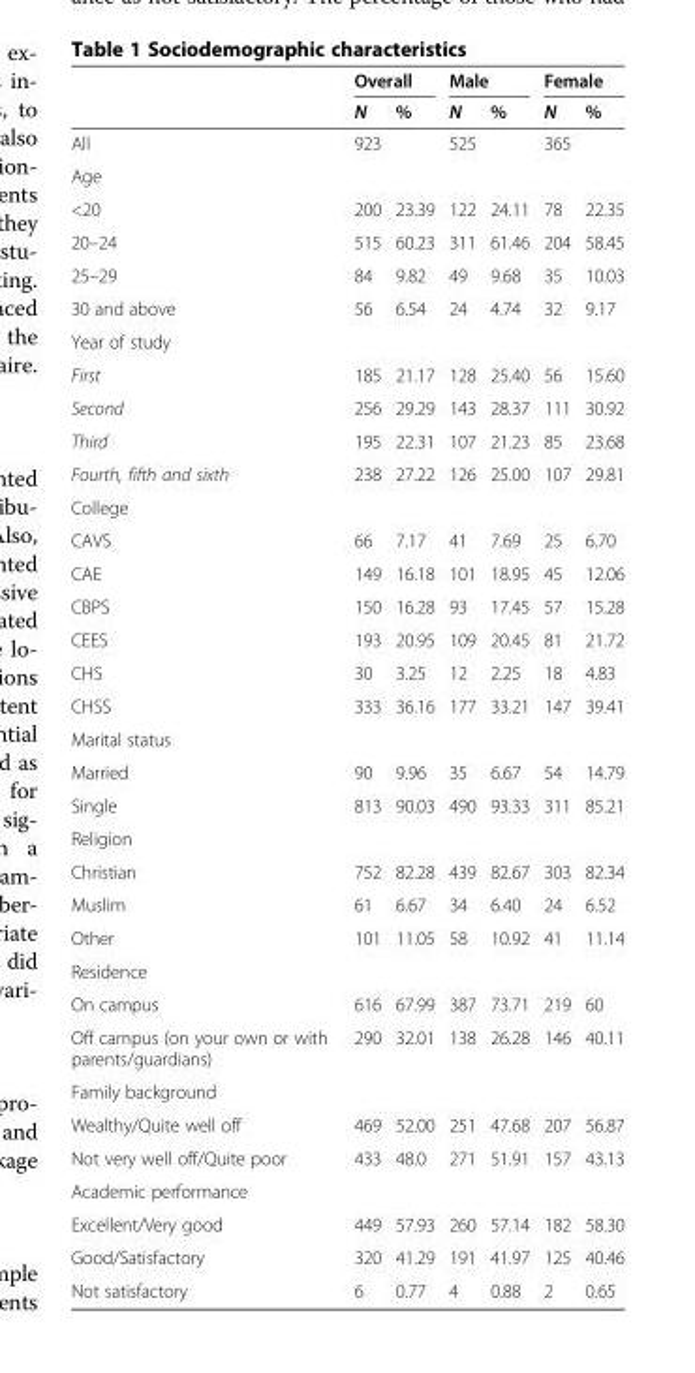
<table><thead><tr><td rowspan="2"></td><td colspan="2">Overall</td><td colspan="2">Male</td><td colspan="2">Female</td></tr><tr><td>N</td><td>%</td><td>N</td><td>%</td><td>N</td><td>%</td></tr></thead><tbody><tr><td>All</td><td>923</td><td></td><td>525</td><td></td><td>365</td><td></td></tr><tr><td colspan="7">Age</td></tr><tr><td>&lt;20</td><td>200</td><td>23.39</td><td>122</td><td>24.11</td><td>78</td><td>22.35</td></tr><tr><td>20–24</td><td>515</td><td>60.23</td><td>311</td><td>61.46</td><td>204</td><td>58.45</td></tr><tr><td>25–29</td><td>84</td><td>9.82</td><td>49</td><td>9.68</td><td>35</td><td>10.03</td></tr><tr><td>30 and above</td><td>56</td><td>6.54</td><td>24</td><td>4.74</td><td>32</td><td>9.17</td></tr><tr><td colspan="7">Year of study</td></tr><tr><td>First</td><td>185</td><td>21.17</td><td>128</td><td>25.40</td><td>56</td><td>15.60</td></tr><tr><td>Second</td><td>256</td><td>29.29</td><td>143</td><td>28.37</td><td>111</td><td>30.92</td></tr><tr><td>Third</td><td>195</td><td>22.31</td><td>107</td><td>21.23</td><td>85</td><td>23.68</td></tr><tr><td>Fourth, fifth and sixth</td><td>238</td><td>27.22</td><td>126</td><td>25.00</td><td>107</td><td>29.81</td></tr><tr><td colspan="7">College</td></tr><tr><td>CAVS</td><td>66</td><td>7.17</td><td>41</td><td>7.69</td><td>25</td><td>6.70</td></tr><tr><td>CAE</td><td>149</td><td>16.18</td><td>101</td><td>18.95</td><td>45</td><td>12.06</td></tr><tr><td>CBPS</td><td>150</td><td>16.28</td><td>93</td><td>17.45</td><td>57</td><td>15.28</td></tr><tr><td>CEES</td><td>193</td><td>20.95</td><td>109</td><td>20.45</td><td>81</td><td>21.72</td></tr><tr><td>CHS</td><td>30</td><td>3.25</td><td>12</td><td>2.25</td><td>18</td><td>4.83</td></tr><tr><td>CHSS</td><td>333</td><td>36.16</td><td>177</td><td>33.21</td><td>147</td><td>39.41</td></tr><tr><td colspan="7">Marital status</td></tr><tr><td>Married</td><td>90</td><td>9.96</td><td>35</td><td>6.67</td><td>54</td><td>14.79</td></tr><tr><td>Single</td><td>813</td><td>90.03</td><td>490</td><td>93.33</td><td>311</td><td>85.21</td></tr><tr><td colspan="7">Religion</td></tr><tr><td>Christian</td><td>752</td><td>82.28</td><td>439</td><td>82.67</td><td>303</td><td>82.34</td></tr><tr><td>Muslim</td><td>61</td><td>6.67</td><td>34</td><td>6.40</td><td>24</td><td>6.52</td></tr><tr><td>Other</td><td>101</td><td>11.05</td><td>58</td><td>10.92</td><td>41</td><td>11.14</td></tr><tr><td colspan="7">Residence</td></tr><tr><td>On campus</td><td>616</td><td>67.99</td><td>387</td><td>73.71</td><td>219</td><td>60</td></tr><tr><td>Off campus (on your own or with parents/guardians)</td><td>290</td><td>32.01</td><td>138</td><td>26.28</td><td>146</td><td>40.11</td></tr><tr><td colspan="7">Family background</td></tr><tr><td>Wealthy/Quite well off</td><td>469</td><td>52.00</td><td>251</td><td>47.68</td><td>207</td><td>56.87</td></tr><tr><td>Not very well off/Quite poor</td><td>433</td><td>48.0</td><td>271</td><td>51.91</td><td>157</td><td>43.13</td></tr><tr><td colspan="7">Academic performance</td></tr><tr><td>Excellent/Very good</td><td>449</td><td>57.93</td><td>260</td><td>57.14</td><td>182</td><td>58.30</td></tr><tr><td>Good/Satisfactory</td><td>320</td><td>41.29</td><td>191</td><td>41.97</td><td>125</td><td>40.46</td></tr><tr><td>Not satisfactory</td><td>6</td><td>0.77</td><td>4</td><td>0.88</td><td>2</td><td>0.65</td></tr></tbody></table>